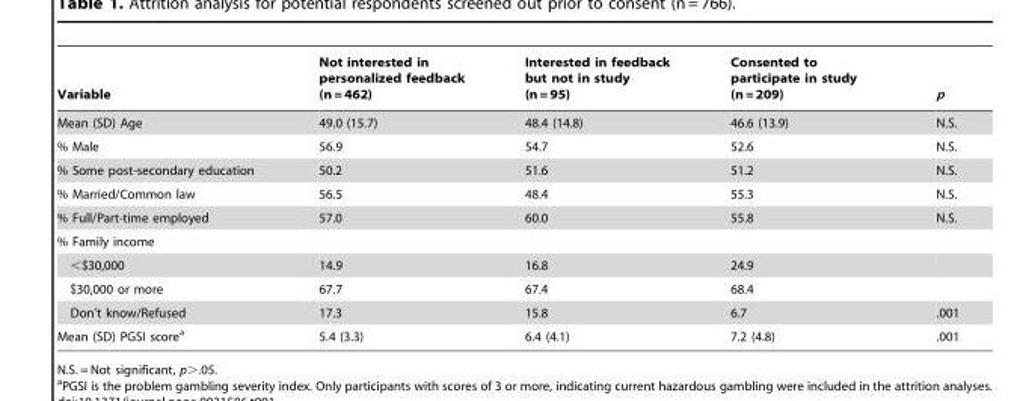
<table><thead><tr><td>Variable</td><td>Not interested in personalized feedback (n = 462)</td><td>Interested in feedback but not in study (n = 95)</td><td>Consented to participate in study (n = 209)</td><td>p</td></tr></thead><tbody><tr><td>Mean (SD) Age</td><td>49.0 (15.7)</td><td>48.4 (14.8)</td><td>46.6 (13.9)</td><td>N.S.</td></tr><tr><td>% Male</td><td>56.9</td><td>54.7</td><td>52.6</td><td>N.S.</td></tr><tr><td>% Some post-secondary education</td><td>50.2</td><td>51.6</td><td>51.2</td><td>N.S.</td></tr><tr><td>% Married/Common law</td><td>56.5</td><td>48.4</td><td>55.3</td><td>N.S.</td></tr><tr><td>% Full/Part-time employed</td><td>57.0</td><td>60.0</td><td>55.8</td><td>N.S.</td></tr><tr><td colspan="5">% Family income</td></tr><tr><td>&lt;$30,000</td><td>14.9</td><td>16.8</td><td>24.9</td><td></td></tr><tr><td>$30,000 or more</td><td>67.7</td><td>67.4</td><td>68.4</td><td></td></tr><tr><td>Don’t know/Refused</td><td>17.3</td><td>15.8</td><td>6.7</td><td>.001</td></tr><tr><td>Mean (SD) PGSI score<sup>a</sup></td><td>5.4 (3.3)</td><td>6.4 (4.1)</td><td>7.2 (4.8)</td><td>.001</td></tr></tbody></table>